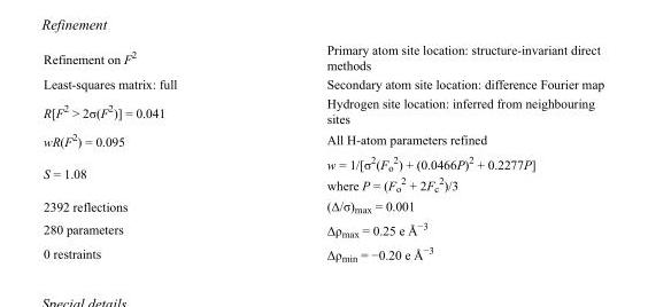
<table><tbody><tr><td>Refinement on F<sup>2</sup></td><td>Primary atom site location: structure-invariant direct methods</td></tr><tr><td>Least-squares matrix: full</td><td>Secondary atom site location: difference Fourier map</td></tr><tr><td>R[F<sup>2</sup> &gt; 2σ(F<sup>2</sup>)] = 0.041</td><td>Hydrogen site location: inferred from neighbouring sites</td></tr><tr><td>wR(F<sup>2</sup>) = 0.095</td><td>All H-atom parameters refined</td></tr><tr><td>S = 1.08</td><td>w = 1/[σ<sup>2</sup>(F<sub>o</sub> <sup>2</sup>) + (0.0466P)<sup>2</sup> + 0.2277P] where P = (F<sub>o</sub> <sup>2</sup> + 2F<sub>c</sub> <sup>2</sup>)/3</td></tr><tr><td>2392 reflections</td><td>(Δ/σ)<sub>max</sub> = 0.001</td></tr><tr><td>280 parameters</td><td>Δρ<sub>max</sub> = 0.25 e Å<sup>−3</sup></td></tr><tr><td>0 restraints</td><td>Δρ<sub>min</sub> = −0.20 e Å<sup>−3</sup></td></tr></tbody></table>